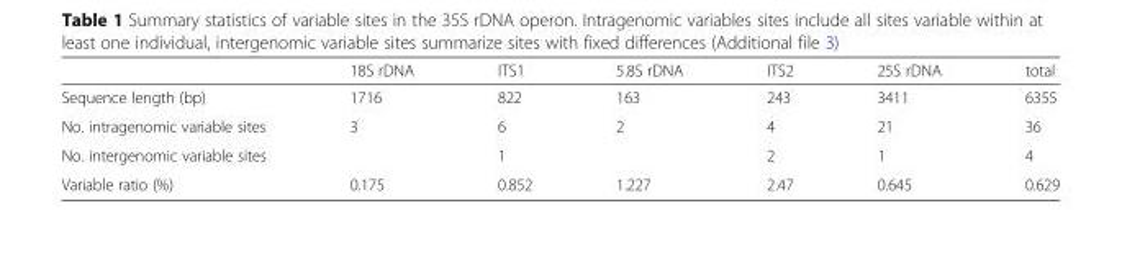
<table><thead><tr><td></td><td>18S rDNA</td><td>ITS1</td><td>5.8S rDNA</td><td>ITS2</td><td>25S rDNA</td><td>total</td></tr></thead><tbody><tr><td>Sequence length (bp)</td><td>1716</td><td>822</td><td>163</td><td>243</td><td>3411</td><td>6355</td></tr><tr><td>No. intragenomic variable sites</td><td>3</td><td>6</td><td>2</td><td>4</td><td>21</td><td>36</td></tr><tr><td>No. intergenomic variable sites</td><td></td><td>1</td><td></td><td>2</td><td>1</td><td>4</td></tr><tr><td>Variable ratio (%)</td><td>0.175</td><td>0.852</td><td>1.227</td><td>2.47</td><td>0.645</td><td>0.629</td></tr></tbody></table>